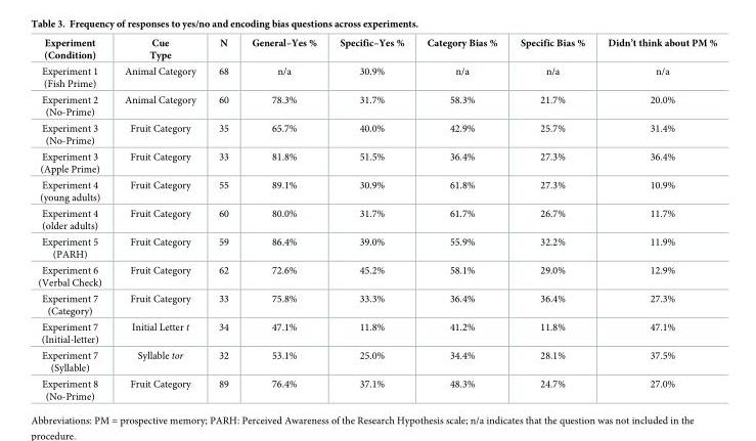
<table><thead><tr><td>Experiment (Condition)</td><td>Cue Type</td><td>N</td><td>General–Yes %</td><td>Specific–Yes %</td><td>Category Bias %</td><td>Specific Bias %</td><td>Didn’t think about PM %</td></tr></thead><tbody><tr><td>Experiment 1 (Fish Prime)</td><td>Animal Category</td><td>68</td><td>n/a</td><td>30.9%</td><td>n/a</td><td>n/a</td><td>n/a</td></tr><tr><td>Experiment 2 (No-Prime)</td><td>Animal Category</td><td>60</td><td>78.3%</td><td>31.7%</td><td>58.3%</td><td>21.7%</td><td>20.0%</td></tr><tr><td>Experiment 3 (No-Prime)</td><td>Fruit Category</td><td>35</td><td>65.7%</td><td>40.0%</td><td>42.9%</td><td>25.7%</td><td>31.4%</td></tr><tr><td>Experiment 3 (Apple Prime)</td><td>Fruit Category</td><td>33</td><td>81.8%</td><td>51.5%</td><td>36.4%</td><td>27.3%</td><td>36.4%</td></tr><tr><td>Experiment 4 (young adults)</td><td>Fruit Category</td><td>55</td><td>89.1%</td><td>30.9%</td><td>61.8%</td><td>27.3%</td><td>10.9%</td></tr><tr><td>Experiment 4 (older adults)</td><td>Fruit Category</td><td>60</td><td>80.0%</td><td>31.7%</td><td>61.7%</td><td>26.7%</td><td>11.7%</td></tr><tr><td>Experiment 5 (PARH)</td><td>Fruit Category</td><td>59</td><td>86.4%</td><td>39.0%</td><td>55.9%</td><td>32.2%</td><td>11.9%</td></tr><tr><td>Experiment 6 (Verbal Check)</td><td>Fruit Category</td><td>62</td><td>72.6%</td><td>45.2%</td><td>58.1%</td><td>29.0%</td><td>12.9%</td></tr><tr><td>Experiment 7 (Category)</td><td>Fruit Category</td><td>33</td><td>75.8%</td><td>33.3%</td><td>36.4%</td><td>36.4%</td><td>27.3%</td></tr><tr><td>Experiment 7 (Initial-letter)</td><td>Initial Letter t</td><td>34</td><td>47.1%</td><td>11.8%</td><td>41.2%</td><td>11.8%</td><td>47.1%</td></tr><tr><td>Experiment 7 (Syllable)</td><td>Syllable tor</td><td>32</td><td>53.1%</td><td>25.0%</td><td>34.4%</td><td>28.1%</td><td>37.5%</td></tr><tr><td>Experiment 8 (No-Prime)</td><td>Fruit Category</td><td>89</td><td>76.4%</td><td>37.1%</td><td>48.3%</td><td>24.7%</td><td>27.0%</td></tr></tbody></table>